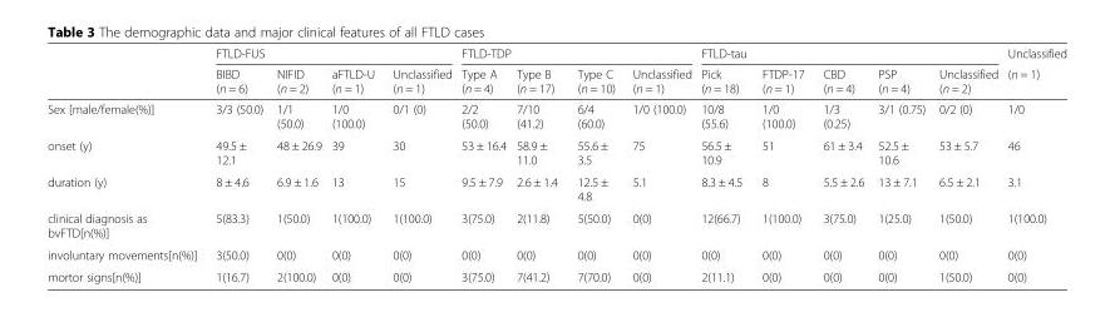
<table><thead><tr><td rowspan="2"></td><td colspan="4">FTLD-FUS</td><td colspan="4">FTLD-TDP</td><td colspan="5">FTLD-tau</td><td rowspan="2">Unclassified (n = 1)</td></tr><tr><td>BIBD (n = 6)</td><td>NIFID (n = 2)</td><td>aFTLD-U (n = 1)</td><td>Unclassified (n = 1)</td><td>Type A (n = 4)</td><td>Type B (n = 17)</td><td>Type C (n = 10)</td><td>Unclassified (n = 1)</td><td>Pick (n = 18)</td><td>FTDP-17 (n = 1)</td><td>CBD (n = 4)</td><td>PSP (n = 4)</td><td>Unclassified (n = 2)</td></tr></thead><tbody><tr><td>Sex [male/female(%)]</td><td>3/3 (50.0)</td><td>1/1 (50.0)</td><td>1/0 (100.0)</td><td>0/1 (0)</td><td>2/2 (50.0)</td><td>7/10 (41.2)</td><td>6/4 (60.0)</td><td>1/0 (100.0)</td><td>10/8 (55.6)</td><td>1/0 (100.0)</td><td>1/3 (0.25)</td><td>3/1 (0.75)</td><td>0/2 (0)</td><td>1/0</td></tr><tr><td>onset (y)</td><td>49.5 ± 12.1</td><td>48 ± 26.9</td><td>39</td><td>30</td><td>53 ± 16.4</td><td>58.9 ± 11.0</td><td>55.6 ± 3.5</td><td>75</td><td>56.5 ± 10.9</td><td>51</td><td>61 ± 3.4</td><td>52.5 ± 10.6</td><td>53 ± 5.7</td><td>46</td></tr><tr><td>duration (y)</td><td>8 ± 4.6</td><td>6.9 ± 1.6</td><td>13</td><td>15</td><td>9.5 ± 7.9</td><td>2.6 ± 1.4</td><td>12.5 ± 4.8</td><td>5.1</td><td>8.3 ± 4.5</td><td>8</td><td>5.5 ± 2.6</td><td>13 ± 7.1</td><td>6.5 ± 2.1</td><td>3.1</td></tr><tr><td>clinical diagnosis as bvFTD[n(%)]</td><td>5(83.3)</td><td>1(50.0)</td><td>1(100.0)</td><td>1(100.0)</td><td>3(75.0)</td><td>2(11.8)</td><td>5(50.0)</td><td>0(0)</td><td>12(66.7)</td><td>1(100.0)</td><td>3(75.0)</td><td>1(25.0)</td><td>1(50.0)</td><td>1(100.0)</td></tr><tr><td>involuntary movements[n(%)]</td><td>3(50.0)</td><td>0(0)</td><td>0(0)</td><td>0(0)</td><td>0(0)</td><td>0(0)</td><td>0(0)</td><td>0(0)</td><td>0(0)</td><td>0(0)</td><td>0(0)</td><td>0(0)</td><td>0(0)</td><td>0(0)</td></tr><tr><td>mortor signs[n(%)]</td><td>1(16.7)</td><td>2(100.0)</td><td>0(0)</td><td>0(0)</td><td>3(75.0)</td><td>7(41.2)</td><td>7(70.0)</td><td>0(0)</td><td>2(11.1)</td><td>0(0)</td><td>0(0)</td><td>0(0)</td><td>1(50.0)</td><td>0(0)</td></tr></tbody></table>